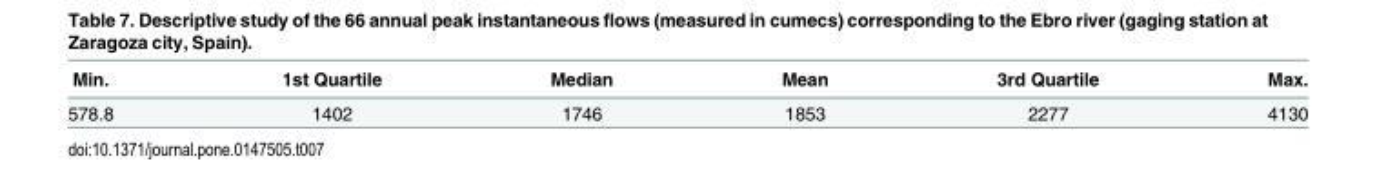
<table><thead><tr><td>Min.</td><td>1st Quartile</td><td>Median</td><td>Mean</td><td>3rd Quartile</td><td>Max.</td></tr></thead><tbody><tr><td>578.8</td><td>1402</td><td>1746</td><td>1853</td><td>2277</td><td>4130</td></tr></tbody></table>